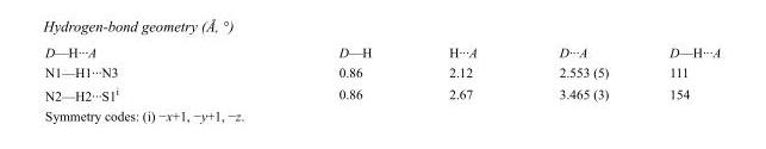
<table><tbody><tr><td>D—H···A</td><td>D—H</td><td>H···A</td><td>D···A</td><td>D—H···A</td></tr><tr><td>N1—H1···N3</td><td>0.86</td><td>2.12</td><td>2.553 (5)</td><td>111</td></tr><tr><td>N2—H2···S1<sup>i</sup></td><td>0.86</td><td>2.67</td><td>3.465 (3)</td><td>154</td></tr></tbody></table>